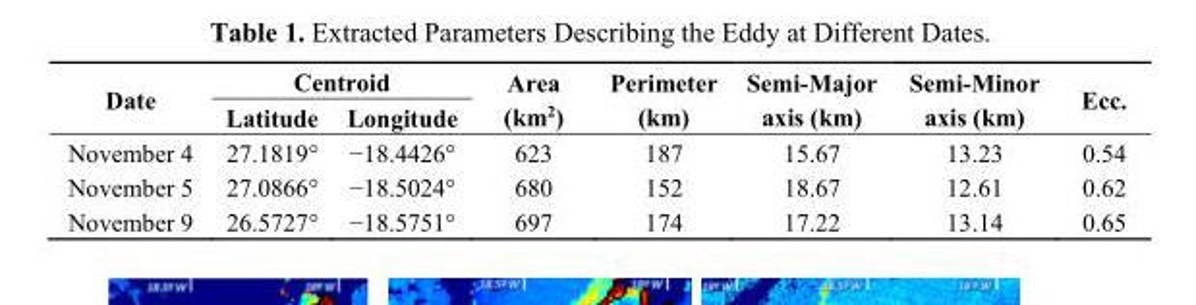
<table><thead><tr><td rowspan="2">Date</td><td colspan="2">Centroid</td><td rowspan="2">Area (km<sup>2</sup>)</td><td rowspan="2">Perimeter (km)</td><td rowspan="2">Semi-Major axis (km)</td><td rowspan="2">Semi-Minor axis (km)</td><td rowspan="2">Ecc.</td></tr><tr><td>Latitude</td><td>Longitude</td></tr></thead><tbody><tr><td>November 4</td><td>27.1819°</td><td>−18.4426°</td><td>623</td><td>187</td><td>15.67</td><td>13.23</td><td>0.54</td></tr><tr><td>November 5</td><td>27.0866°</td><td>−18.5024°</td><td>680</td><td>152</td><td>18.67</td><td>12.61</td><td>0.62</td></tr><tr><td>November 9</td><td>26.5727°</td><td>−18.5751°</td><td>697</td><td>174</td><td>17.22</td><td>13.14</td><td>0.65</td></tr></tbody></table>